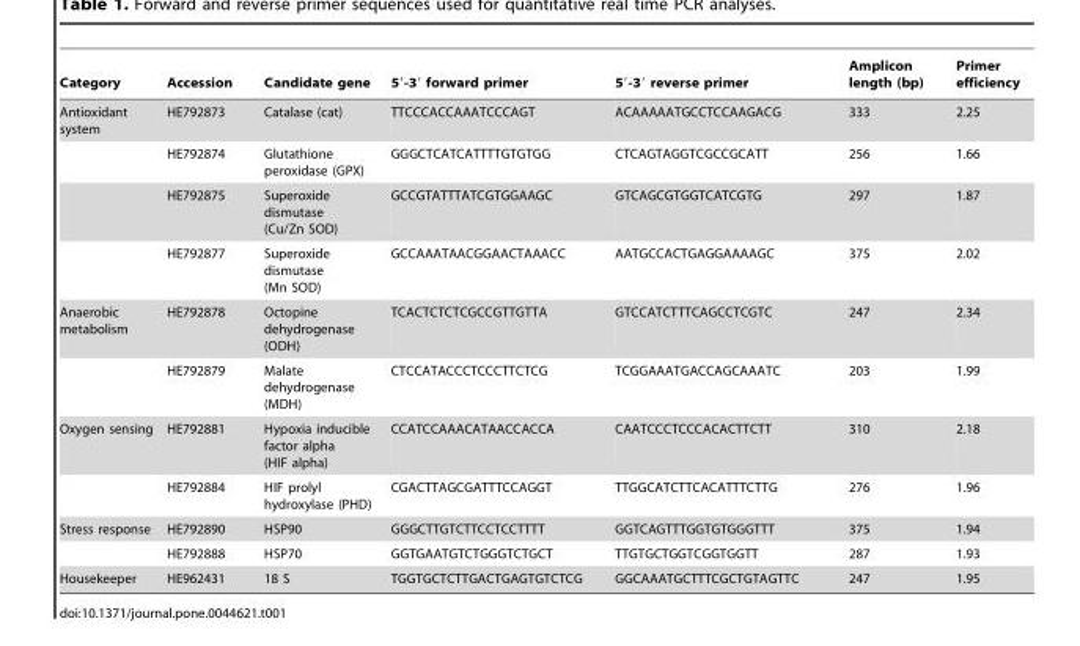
<table><thead><tr><td>Category</td><td>Accession</td><td>Candidate gene</td><td>5′-3′ forward primer</td><td>5′-3′ reverse primer</td><td>Amplicon length (bp)</td><td>Primer efficiency</td></tr></thead><tbody><tr><td rowspan="4">Antioxidant system</td><td>HE792873</td><td>Catalase (cat)</td><td>TTCCCACCAAATCCCAGT</td><td>ACAAAAATGCCTCCAAGACG</td><td>333</td><td>2.25</td></tr><tr><td>HE792874</td><td>Glutathione peroxidase (GPX)</td><td>GGGCTCATCATTTTGTGTGG</td><td>CTCAGTAGGTCGCCGCATT</td><td>256</td><td>1.66</td></tr><tr><td>HE792875</td><td>Superoxide dismutase (Cu/Zn SOD)</td><td>GCCGTATTTATCGTGGAAGC</td><td>GTCAGCGTGGTCATCGTG</td><td>297</td><td>1.87</td></tr><tr><td>HE792877</td><td>Superoxide dismutase (Mn SOD)</td><td>GCCAAATAACGGAACTAAACC</td><td>AATGCCACTGAGGAAAAGC</td><td>375</td><td>2.02</td></tr><tr><td rowspan="2">Anaerobic metabolism</td><td>HE792878</td><td>Octopine dehydrogenase (ODH)</td><td>TCACTCTCTCGCCGTTGTTA</td><td>GTCCATCTTTCAGCCTCGTC</td><td>247</td><td>2.34</td></tr><tr><td>HE792879</td><td>Malate dehydrogenase (MDH)</td><td>CTCCATACCCTCCCTTCTCG</td><td>TCGGAAATGACCAGCAAATC</td><td>203</td><td>1.99</td></tr><tr><td rowspan="2">Oxygen sensing</td><td>HE792881</td><td>Hypoxia inducible factor alpha (HIF alpha)</td><td>CCATCCAAACATAACCACCA</td><td>CAATCCCTCCCACACTTCTT</td><td>310</td><td>2.18</td></tr><tr><td>HE792884</td><td>HIF prolyl hydroxylase (PHD)</td><td>CGACTTAGCGATTTCCAGGT</td><td>TTGGCATCTTCACATTTCTTG</td><td>276</td><td>1.96</td></tr><tr><td rowspan="2">Stress response</td><td>HE792890</td><td>HSP90</td><td>GGGCTTGTCTTCCTCCTTTT</td><td>GGTCAGTTTGGTGTGGGTTT</td><td>375</td><td>1.94</td></tr><tr><td>HE792888</td><td>HSP70</td><td>GGTGAATGTCTGGGTCTGCT</td><td>TTGTGCTGGTCGGTGGTT</td><td>287</td><td>1.93</td></tr><tr><td>Housekeeper</td><td>HE962431</td><td>18 S</td><td>TGGTGCTCTTGACTGAGTGTCTCG</td><td>GGCAAATGCTTTCGCTGTAGTTC</td><td>247</td><td>1.95</td></tr></tbody></table>